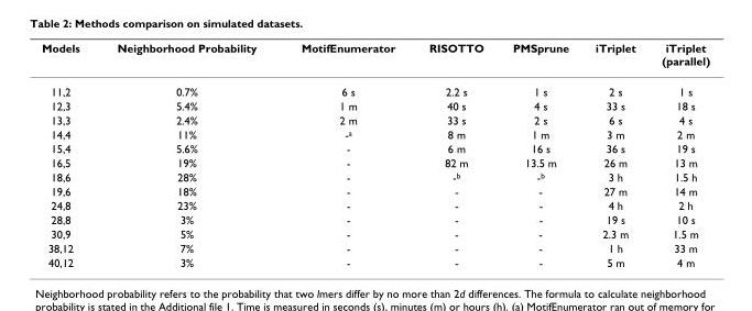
<table><thead><tr><td>Models</td><td>Neighborhood Probability</td><td>MotifEnumerator</td><td>RISOTTO</td><td>PMSprune</td><td>iTriplet</td><td>iTriplet (parallel)</td></tr></thead><tbody><tr><td>11,2</td><td>0.7%</td><td>6 s</td><td>2.2 s</td><td>1 s</td><td>2 s</td><td>1 s</td></tr><tr><td>12,3</td><td>5.4%</td><td>1 m</td><td>40 s</td><td>4 s</td><td>33 s</td><td>18 s</td></tr><tr><td>13,3</td><td>2.4%</td><td>2 m</td><td>33 s</td><td>2 s</td><td>6 s</td><td>4 s</td></tr><tr><td>14,4</td><td>11%</td><td>-<sup>a</sup></td><td>8 m</td><td>1 m</td><td>3 m</td><td>2 m</td></tr><tr><td>15,4</td><td>5.6%</td><td>-</td><td>6 m</td><td>16 s</td><td>36 s</td><td>19 s</td></tr><tr><td>16,5</td><td>19%</td><td>-</td><td>82 m</td><td>13.5 m</td><td>26 m</td><td>13 m</td></tr><tr><td>18,6</td><td>28%</td><td>-</td><td>-<sup>b</sup></td><td>-<sup>b</sup></td><td>3 h</td><td>1.5 h</td></tr><tr><td>19,6</td><td>18%</td><td>-</td><td>-</td><td>-</td><td>27 m</td><td>14 m</td></tr><tr><td>24,8</td><td>23%</td><td>-</td><td>-</td><td>-</td><td>4 h</td><td>2 h</td></tr><tr><td>28,8</td><td>3%</td><td>-</td><td>-</td><td>-</td><td>19 s</td><td>10 s</td></tr><tr><td>30,9</td><td>5%</td><td>-</td><td>-</td><td>-</td><td>2.3 m</td><td>1.5 m</td></tr><tr><td>38,12</td><td>7%</td><td>-</td><td>-</td><td>-</td><td>1 h</td><td>33 m</td></tr><tr><td>40,12</td><td>3%</td><td>-</td><td>-</td><td>-</td><td>5 m</td><td>4 m</td></tr></tbody></table>